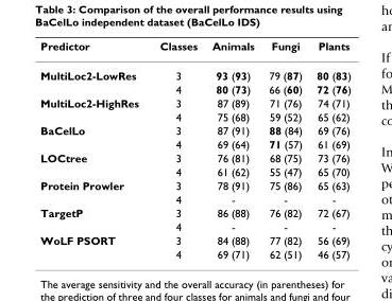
<table><thead><tr><td>Predictor</td><td>Classes</td><td>Animals</td><td>Fungi</td><td>Plants</td></tr></thead><tbody><tr><td rowspan="2">MultiLoc2-LowRes</td><td>3</td><td>93 (93)</td><td>79 (87)</td><td>80 (83)</td></tr><tr><td>4</td><td>80 (73)</td><td>66 (60)</td><td>72 (76)</td></tr><tr><td rowspan="2">MultiLoc2-HighRes</td><td>3</td><td>87 (89)</td><td>71 (76)</td><td>74 (71)</td></tr><tr><td>4</td><td>75 (68)</td><td>59 (52)</td><td>65 (62)</td></tr><tr><td rowspan="2">BaCelLo</td><td>3</td><td>87 (91)</td><td>88 (84)</td><td>69 (76)</td></tr><tr><td>4</td><td>69 (64)</td><td>71 (57)</td><td>61 (69)</td></tr><tr><td rowspan="2">LOCtree</td><td>3</td><td>76 (81)</td><td>68 (75)</td><td>73 (76)</td></tr><tr><td>4</td><td>61 (62)</td><td>55 (47)</td><td>65 (70)</td></tr><tr><td rowspan="2">Protein Prowler</td><td>3</td><td>78 (91)</td><td>75 (86)</td><td>65 (63)</td></tr><tr><td>4</td><td>-</td><td>-</td><td>-</td></tr><tr><td rowspan="2">TargetP</td><td>3</td><td>86 (88)</td><td>76 (82)</td><td>72 (67)</td></tr><tr><td>4</td><td>-</td><td>-</td><td>-</td></tr><tr><td rowspan="2">WoLF PSORT</td><td>3</td><td>84 (88)</td><td>77 (82)</td><td>56 (69)</td></tr><tr><td>4</td><td>69 (71)</td><td>62 (51)</td><td>46 (57)</td></tr></tbody></table>